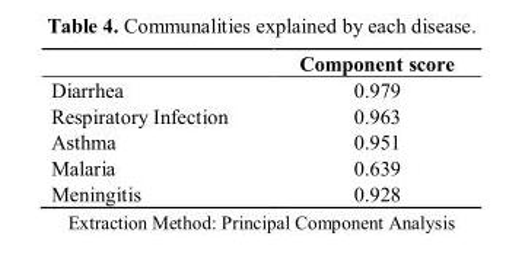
<table><thead><tr><td></td><td>Component score</td></tr></thead><tbody><tr><td>Diarrhea</td><td>0.979</td></tr><tr><td>Respiratory Infection</td><td>0.963</td></tr><tr><td>Asthma</td><td>0.951</td></tr><tr><td>Malaria</td><td>0.639</td></tr><tr><td>Meningitis</td><td>0.928</td></tr></tbody></table>